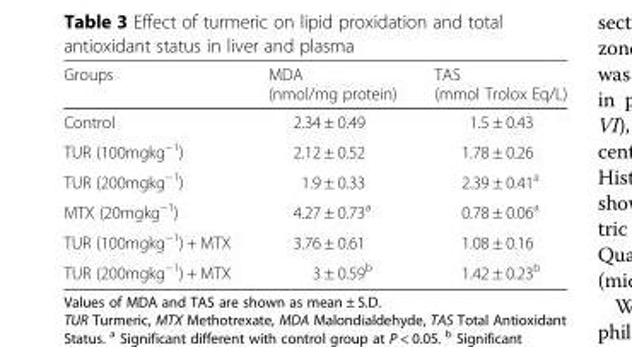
<table><thead><tr><td>Groups</td><td>MDA (nmol/mg protein)</td><td>TAS (mmol Trolox Eq/L)</td></tr></thead><tbody><tr><td>Control</td><td>2.34 ± 0.49</td><td>1.5 ± 0.43</td></tr><tr><td>TUR (100mgkg<sup>−1</sup>)</td><td>2.12 ± 0.52</td><td>1.78 ± 0.26</td></tr><tr><td>TUR (200mgkg<sup>−1</sup>)</td><td>1.9 ± 0.33</td><td>2.39 ± 0.41<sup>a</sup></td></tr><tr><td>MTX (20mgkg<sup>−1</sup>)</td><td>4.27 ± 0.73<sup>a</sup></td><td>0.78 ± 0.06<sup>a</sup></td></tr><tr><td>TUR (100mgkg<sup>−1</sup>) + MTX</td><td>3.76 ± 0.61</td><td>1.08 ± 0.16</td></tr><tr><td>TUR (200mgkg<sup>−1</sup>) + MTX</td><td>3 ± 0.59<sup>b</sup></td><td>1.42 ± 0.23<sup>b</sup></td></tr></tbody></table>